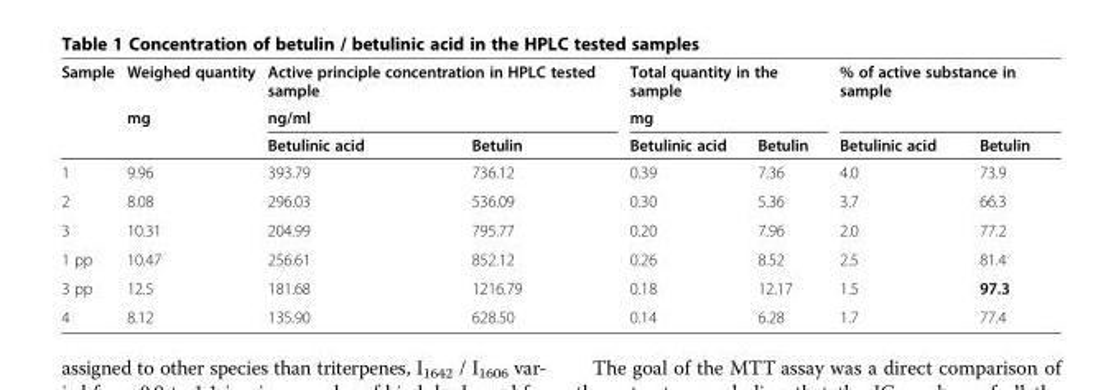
<table><thead><tr><td rowspan="3">Sample</td><td rowspan="3">Weighed quantity mg</td><td rowspan="2" colspan="2">Active principle concentration in HPLC tested sample ng/ml</td><td rowspan="2" colspan="2">Total quantity in the sample mg</td><td colspan="2">% of active substance in sample</td></tr><tr><td rowspan="2">Betulinic acid</td><td rowspan="2">Betulin</td></tr><tr><td>Betulinic acid</td><td>Betulin</td><td>Betulinic acid</td><td>Betulin</td></tr></thead><tbody><tr><td>1</td><td>9.96</td><td>393.79</td><td>736.12</td><td>0.39</td><td>7.36</td><td>4.0</td><td>73.9</td></tr><tr><td>2</td><td>8.08</td><td>296.03</td><td>536.09</td><td>0.30</td><td>5.36</td><td>3.7</td><td>66.3</td></tr><tr><td>3</td><td>10.31</td><td>204.99</td><td>795.77</td><td>0.20</td><td>7.96</td><td>2.0</td><td>77.2</td></tr><tr><td>1 pp</td><td>10.47</td><td>256.61</td><td>852.12</td><td>0.26</td><td>8.52</td><td>2.5</td><td>81.4</td></tr><tr><td>3 pp</td><td>12.5</td><td>181.68</td><td>1216.79</td><td>0.18</td><td>12.17</td><td>1.5</td><td>97.3</td></tr><tr><td>4</td><td>8.12</td><td>135.90</td><td>628.50</td><td>0.14</td><td>6.28</td><td>1.7</td><td>77.4</td></tr></tbody></table>